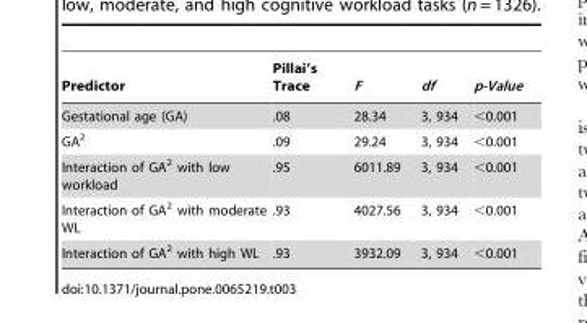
<table><thead><tr><td>Predictor</td><td>Pillai’s Trace</td><td>F</td><td>df</td><td>p-Value</td></tr></thead><tbody><tr><td>Gestational age (GA)</td><td>.08</td><td>28.34</td><td>3, 934</td><td>&lt;0.001</td></tr><tr><td>GA<sup>2</sup></td><td>.09</td><td>29.24</td><td>3, 934</td><td>&lt;0.001</td></tr><tr><td>Interaction of GA<sup>2</sup> with low workload</td><td>.95</td><td>6011.89</td><td>3, 934</td><td>&lt;0.001</td></tr><tr><td>Interaction of GA<sup>2</sup> with moderate WL</td><td>.93</td><td>4027.56</td><td>3, 934</td><td>&lt;0.001</td></tr><tr><td>Interaction of GA<sup>2</sup> with high WL</td><td>.93</td><td>3932.09</td><td>3, 934</td><td>&lt;0.001</td></tr></tbody></table>